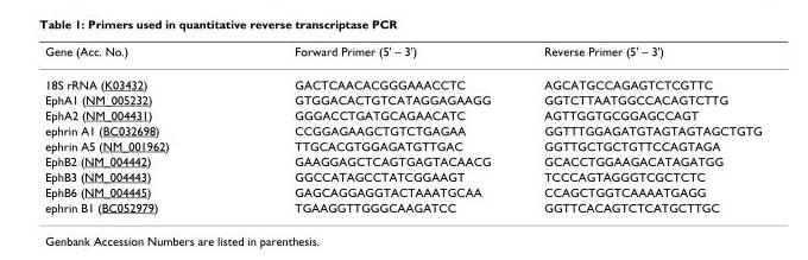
<table><thead><tr><td>Gene (Acc. No.)</td><td>Forward Primer (5&#x27; – 3&#x27;)</td><td>Reverse Primer (5&#x27; – 3&#x27;)</td></tr></thead><tbody><tr><td>18S rRNA (K03432)</td><td>GACTCAACACGGGAAACCTC</td><td>AGCATGCCAGAGTCTCGTTC</td></tr><tr><td>EphA1 (NM_005232)</td><td>GTGGACACTGTCATAGGAGAAGG</td><td>GGTCTTAATGGCCACAGTCTTG</td></tr><tr><td>EphA2 (NM_004431)</td><td>GGGACCTGATGCAGAACATC</td><td>AGTTGGTGCGGAGCCAGT</td></tr><tr><td>ephrin A1 (BC032698)</td><td>CCGGAGAAGCTGTCTGAGAA</td><td>GGTTTGGAGATGTAGTAGTAGCTGTG</td></tr><tr><td>ephrin A5 (NM_001962)</td><td>TTGCACGTGGAGATGTTGAC</td><td>GGTTGCTGCTGTTCCAGTAGA</td></tr><tr><td>EphB2 (NM_004442)</td><td>GAAGGAGCTCAGTGAGTACAACG</td><td>GCACCTGGAAGACATAGATGG</td></tr><tr><td>EphB3 (NM_004443)</td><td>GGCCATAGCCTATCGGAAGT</td><td>TCCCAGTAGGGTCGCTCTC</td></tr><tr><td>EphB6 (NM_004445)</td><td>GAGCAGGAGGTACTAAATGCAA</td><td>CCAGCTGGTCAAAATGAGG</td></tr><tr><td>ephrin B1 (BC052979)</td><td>TGAAGGTTGGGCAAGATCC</td><td>GGTTCACAGTCTCATGCTTGC</td></tr></tbody></table>